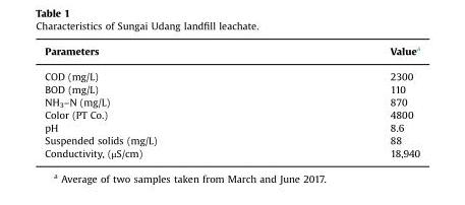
<table><thead><tr><td>Parameters</td><td>Value<sup>a</sup></td></tr></thead><tbody><tr><td>COD (mg/L)</td><td>2300</td></tr><tr><td>BOD (mg/L)</td><td>110</td></tr><tr><td>NH<sub>3</sub>–N (mg/L)</td><td>870</td></tr><tr><td>Color (PT Co.)</td><td>4800</td></tr><tr><td>pH</td><td>8.6</td></tr><tr><td>Suspended solids (mg/L)</td><td>88</td></tr><tr><td>Conductivity, (μS/cm)</td><td>18,940</td></tr></tbody></table>